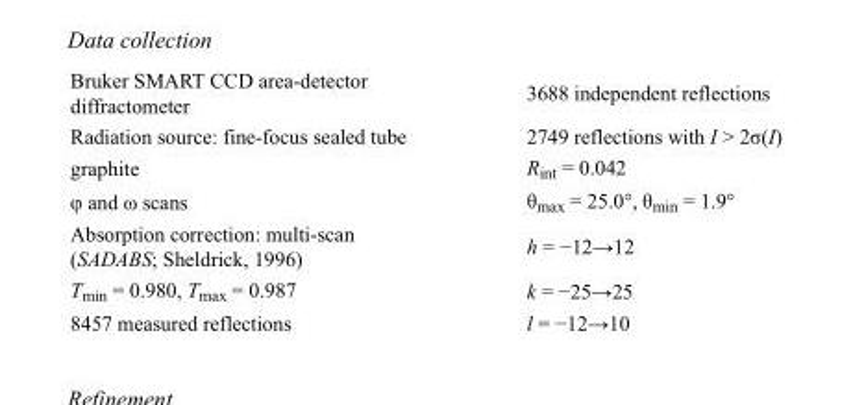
<table><tbody><tr><td>Bruker SMART CCD area-detector diffractometer</td><td>3688 independent reflections</td></tr><tr><td>Radiation source: fine-focus sealed tube</td><td>2749 reflections with I &gt; 2σ(I)</td></tr><tr><td>graphite</td><td>R<sub>int</sub> = 0.042</td></tr><tr><td>φ and ω scans</td><td>θ<sub>max</sub> = 25.0°, θ<sub>min</sub> = 1.9°</td></tr><tr><td>Absorption correction: multi-scan (SADABS; Sheldrick, 1996)</td><td>h = −12→12</td></tr><tr><td>T<sub>min</sub> = 0.980, T<sub>max</sub> = 0.987</td><td>k = −25→25</td></tr><tr><td>8457 measured reflections</td><td>l = −12→10</td></tr></tbody></table>